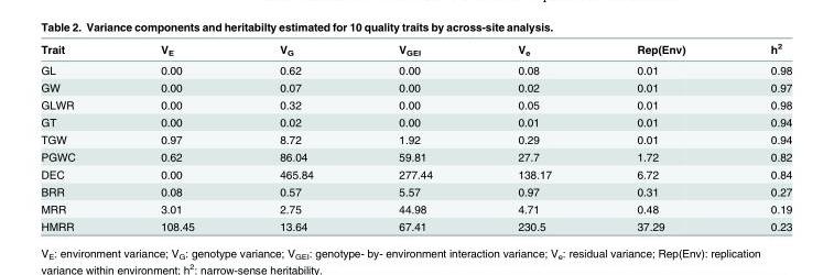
<table><thead><tr><td>Trait</td><td>V<sub>E</sub></td><td>V<sub>G</sub></td><td>V<sub>GEI</sub></td><td>V<sub>e</sub></td><td>Rep(Env)</td><td>h<sup>2</sup></td></tr></thead><tbody><tr><td>GL</td><td>0.00</td><td>0.62</td><td>0.00</td><td>0.08</td><td>0.01</td><td>0.98</td></tr><tr><td>GW</td><td>0.00</td><td>0.07</td><td>0.00</td><td>0.02</td><td>0.01</td><td>0.97</td></tr><tr><td>GLWR</td><td>0.00</td><td>0.32</td><td>0.00</td><td>0.05</td><td>0.01</td><td>0.98</td></tr><tr><td>GT</td><td>0.00</td><td>0.02</td><td>0.00</td><td>0.01</td><td>0.01</td><td>0.94</td></tr><tr><td>TGW</td><td>0.97</td><td>8.72</td><td>1.92</td><td>0.29</td><td>0.01</td><td>0.94</td></tr><tr><td>PGWC</td><td>0.62</td><td>86.04</td><td>59.81</td><td>27.7</td><td>1.72</td><td>0.82</td></tr><tr><td>DEC</td><td>0.00</td><td>465.84</td><td>277.44</td><td>138.17</td><td>6.72</td><td>0.84</td></tr><tr><td>BRR</td><td>0.08</td><td>0.57</td><td>5.57</td><td>0.97</td><td>0.31</td><td>0.27</td></tr><tr><td>MRR</td><td>3.01</td><td>2.75</td><td>44.98</td><td>4.71</td><td>0.48</td><td>0.19</td></tr><tr><td>HMRR</td><td>108.45</td><td>13.64</td><td>67.41</td><td>230.5</td><td>37.29</td><td>0.23</td></tr></tbody></table>